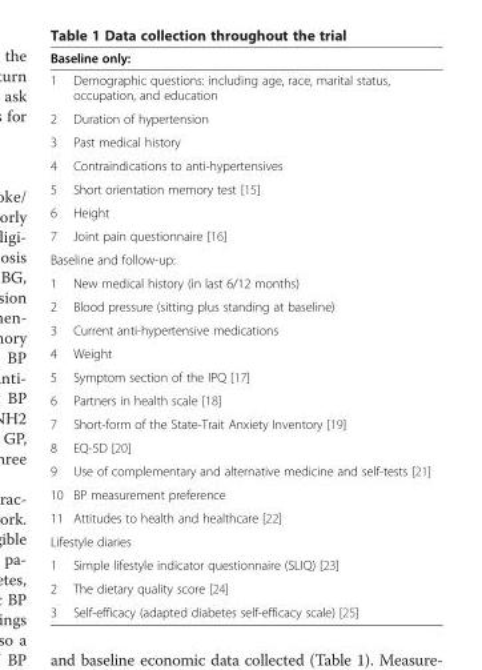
<table><thead><tr><td colspan="2">Baseline only:</td></tr><tr><td>1</td><td>Demographic questions: including age, race, marital status, occupation, and education</td></tr></thead><tbody><tr><td>2</td><td>Duration of hypertension</td></tr><tr><td>3</td><td>Past medical history</td></tr><tr><td>4</td><td>Contraindications to anti-hypertensives</td></tr><tr><td>5</td><td>Short orientation memory test [15]</td></tr><tr><td>6</td><td>Height</td></tr><tr><td>7</td><td>Joint pain questionnaire [16]</td></tr><tr><td colspan="2">Baseline and follow-up:</td></tr><tr><td>1</td><td>New medical history (in last 6/12 months)</td></tr><tr><td>2</td><td>Blood pressure (sitting plus standing at baseline)</td></tr><tr><td>3</td><td>Current anti-hypertensive medications</td></tr><tr><td>4</td><td>Weight</td></tr><tr><td>5</td><td>Symptom section of the IPQ [17]</td></tr><tr><td>6</td><td>Partners in health scale [18]</td></tr><tr><td>7</td><td>Short-form of the State-Trait Anxiety Inventory [19]</td></tr><tr><td>8</td><td>EQ-5D [20]</td></tr><tr><td>9</td><td>Use of complementary and alternative medicine and self-tests [21]</td></tr><tr><td>10</td><td>BP measurement preference</td></tr><tr><td>11</td><td>Attitudes to health and healthcare [22]</td></tr><tr><td colspan="2">Lifestyle diaries</td></tr><tr><td>1</td><td>Simple lifestyle indicator questionnaire (SLIQ) [23]</td></tr><tr><td>2</td><td>The dietary quality score [24]</td></tr><tr><td>3</td><td>Self-efficacy (adapted diabetes self-efficacy scale) [25]</td></tr></tbody></table>